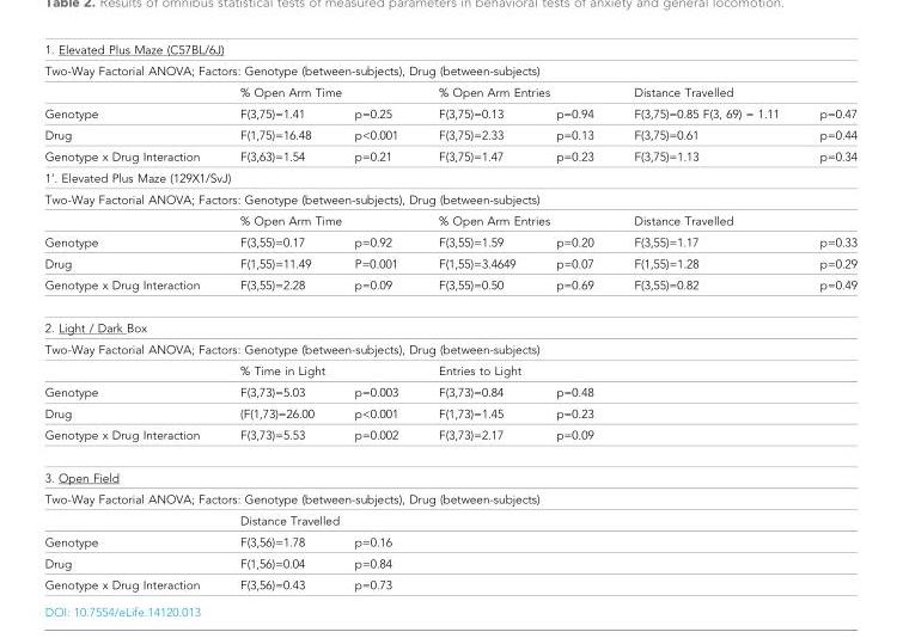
<table><tbody><tr><td colspan="7">1. Elevated Plus Maze (C57BL/6J)</td></tr><tr><td colspan="7">Two-Way Factorial ANOVA; Factors: Genotype (between-subjects), Drug (between-subjects)</td></tr><tr><td></td><td colspan="2">% Open Arm Time</td><td colspan="2">% Open Arm Entries</td><td colspan="2">Distance Travelled</td></tr><tr><td>Genotype</td><td>F(3,75)=1.41</td><td>p=0.25</td><td>F(3,75)=0.13</td><td>p=0.94</td><td>F(3,75)=0.85 F(3, 69) = 1.11</td><td>p=0.47</td></tr><tr><td>Drug</td><td>F(1,75)=16.48</td><td>p&lt;0.001</td><td>F(3,75)=2.33</td><td>p=0.13</td><td>F(3,75)=0.61</td><td>p=0.44</td></tr><tr><td>Genotype x Drug Interaction</td><td>F(3,63)=1.54</td><td>p=0.21</td><td>F(3,75)=1.47</td><td>p=0.23</td><td>F(3,75)=1.13</td><td>p=0.34</td></tr><tr><td colspan="7">1’. Elevated Plus Maze (129X1/SvJ)</td></tr><tr><td colspan="7">Two-Way Factorial ANOVA; Factors: Genotype (between-subjects), Drug (between-subjects)</td></tr><tr><td></td><td colspan="2">% Open Arm Time</td><td colspan="2">% Open Arm Entries</td><td colspan="2">Distance Travelled</td></tr><tr><td>Genotype</td><td>F(3,55)=0.17</td><td>p=0.92</td><td>F(3,55)=1.59</td><td>p=0.20</td><td>F(3,55)=1.17</td><td>p=0.33</td></tr><tr><td>Drug</td><td>F(1,55)=11.49</td><td>P=0.001</td><td>F(1,55)=3.4649</td><td>p=0.07</td><td>F(1,55)=1.28</td><td>p=0.29</td></tr><tr><td>Genotype x Drug Interaction</td><td>F(3,55)=2.28</td><td>p=0.09</td><td>F(3,55)=0.50</td><td>p=0.69</td><td>F(3,55)=0.82</td><td>p=0.49</td></tr><tr><td colspan="7">2. Light / Dark Box</td></tr><tr><td colspan="7">Two-Way Factorial ANOVA; Factors: Genotype (between-subjects), Drug (between-subjects)</td></tr><tr><td></td><td colspan="2">% Time in Light</td><td colspan="2">Entries to Light</td><td colspan="2"></td></tr><tr><td>Genotype</td><td>F(3,73)=5.03</td><td>p=0.003</td><td>F(3,73)=0.84</td><td>p=0.48</td><td></td><td></td></tr><tr><td>Drug</td><td>(F(1,73)=26.00</td><td>p&lt;0.001</td><td>F(1,73)=1.45</td><td>p=0.23</td><td></td><td></td></tr><tr><td>Genotype x Drug Interaction</td><td>F(3,73)=5.53</td><td>p=0.002</td><td>F(3,73)=2.17</td><td>p=0.09</td><td></td><td></td></tr><tr><td colspan="7">3. Open Field</td></tr><tr><td colspan="7">Two-Way Factorial ANOVA; Factors: Genotype (between-subjects), Drug (between-subjects)</td></tr><tr><td></td><td colspan="2">Distance Travelled</td><td colspan="2"></td><td colspan="2"></td></tr><tr><td>Genotype</td><td>F(3,56)=1.78</td><td>p=0.16</td><td></td><td></td><td></td><td></td></tr><tr><td>Drug</td><td>F(1,56)=0.04</td><td>p=0.84</td><td></td><td></td><td></td><td></td></tr><tr><td>Genotype x Drug Interaction</td><td>F(3,56)=0.43</td><td>p=0.73</td><td></td><td></td><td></td><td></td></tr></tbody></table>